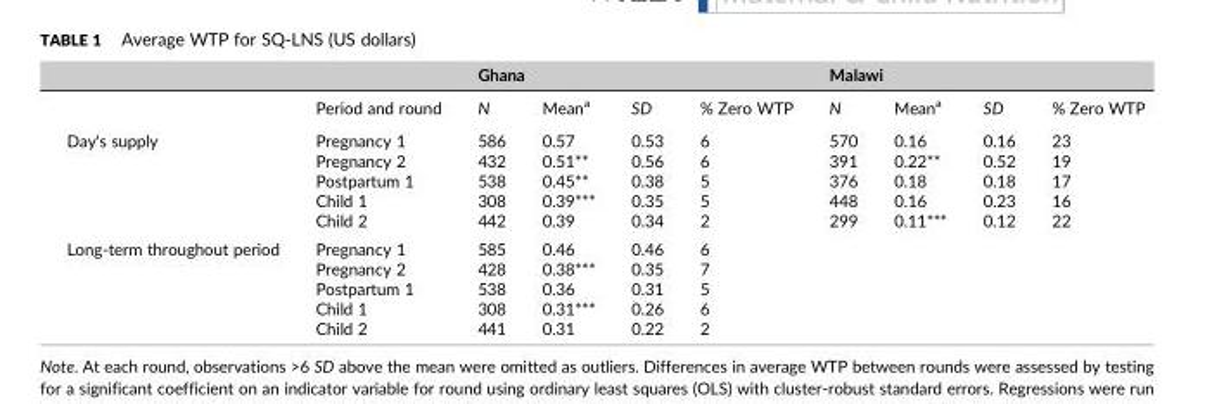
<table><thead><tr><td rowspan="2"></td><td rowspan="2">Period and round</td><td colspan="4">Ghana</td><td colspan="4">Malawi</td></tr><tr><td>N</td><td>Mean<sup>a</sup></td><td>SD</td><td>% Zero WTP</td><td>N</td><td>Mean<sup>a</sup></td><td>SD</td><td>% Zero WTP</td></tr></thead><tbody><tr><td rowspan="5">Day&#x27;s supply</td><td>Pregnancy 1</td><td>586</td><td>0.57</td><td>0.53</td><td>6</td><td>570</td><td>0.16</td><td>0.16</td><td>23</td></tr><tr><td>Pregnancy 2</td><td>432</td><td>0.51**</td><td>0.56</td><td>6</td><td>391</td><td>0.22**</td><td>0.52</td><td>19</td></tr><tr><td>Postpartum 1</td><td>538</td><td>0.45**</td><td>0.38</td><td>5</td><td>376</td><td>0.18</td><td>0.18</td><td>17</td></tr><tr><td>Child 1</td><td>308</td><td>0.39***</td><td>0.35</td><td>5</td><td>448</td><td>0.16</td><td>0.23</td><td>16</td></tr><tr><td>Child 2</td><td>442</td><td>0.39</td><td>0.34</td><td>2</td><td>299</td><td>0.11***</td><td>0.12</td><td>22</td></tr><tr><td rowspan="5">Long‐term throughout period</td><td>Pregnancy 1</td><td>585</td><td>0.46</td><td>0.46</td><td>6</td><td></td><td></td><td></td><td></td></tr><tr><td>Pregnancy 2</td><td>428</td><td>0.38***</td><td>0.35</td><td>7</td><td></td><td></td><td></td><td></td></tr><tr><td>Postpartum 1</td><td>538</td><td>0.36</td><td>0.31</td><td>5</td><td></td><td></td><td></td><td></td></tr><tr><td>Child 1</td><td>308</td><td>0.31***</td><td>0.26</td><td>6</td><td></td><td></td><td></td><td></td></tr><tr><td>Child 2</td><td>441</td><td>0.31</td><td>0.22</td><td>2</td><td></td><td></td><td></td><td></td></tr></tbody></table>